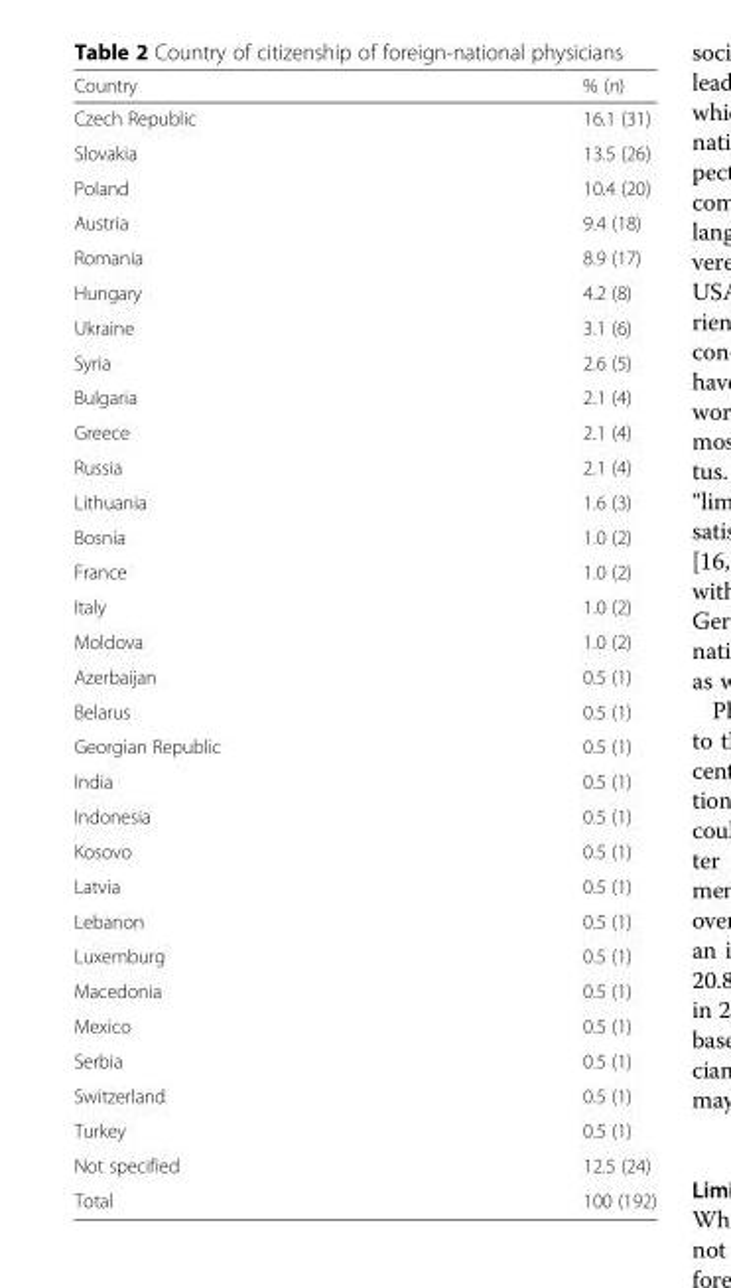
<table><thead><tr><td>Country</td><td>% (n)</td></tr></thead><tbody><tr><td>Czech Republic</td><td>16.1 (31)</td></tr><tr><td>Slovakia</td><td>13.5 (26)</td></tr><tr><td>Poland</td><td>10.4 (20)</td></tr><tr><td>Austria</td><td>9.4 (18)</td></tr><tr><td>Romania</td><td>8.9 (17)</td></tr><tr><td>Hungary</td><td>4.2 (8)</td></tr><tr><td>Ukraine</td><td>3.1 (6)</td></tr><tr><td>Syria</td><td>2.6 (5)</td></tr><tr><td>Bulgaria</td><td>2.1 (4)</td></tr><tr><td>Greece</td><td>2.1 (4)</td></tr><tr><td>Russia</td><td>2.1 (4)</td></tr><tr><td>Lithuania</td><td>1.6 (3)</td></tr><tr><td>Bosnia</td><td>1.0 (2)</td></tr><tr><td>France</td><td>1.0 (2)</td></tr><tr><td>Italy</td><td>1.0 (2)</td></tr><tr><td>Moldova</td><td>1.0 (2)</td></tr><tr><td>Azerbaijan</td><td>0.5 (1)</td></tr><tr><td>Belarus</td><td>0.5 (1)</td></tr><tr><td>Georgian Republic</td><td>0.5 (1)</td></tr><tr><td>India</td><td>0.5 (1)</td></tr><tr><td>Indonesia</td><td>0.5 (1)</td></tr><tr><td>Kosovo</td><td>0.5 (1)</td></tr><tr><td>Latvia</td><td>0.5 (1)</td></tr><tr><td>Lebanon</td><td>0.5 (1)</td></tr><tr><td>Luxemburg</td><td>0.5 (1)</td></tr><tr><td>Macedonia</td><td>0.5 (1)</td></tr><tr><td>Mexico</td><td>0.5 (1)</td></tr><tr><td>Serbia</td><td>0.5 (1)</td></tr><tr><td>Switzerland</td><td>0.5 (1)</td></tr><tr><td>Turkey</td><td>0.5 (1)</td></tr><tr><td>Not specified</td><td>12.5 (24)</td></tr><tr><td>Total</td><td>100 (192)</td></tr></tbody></table>